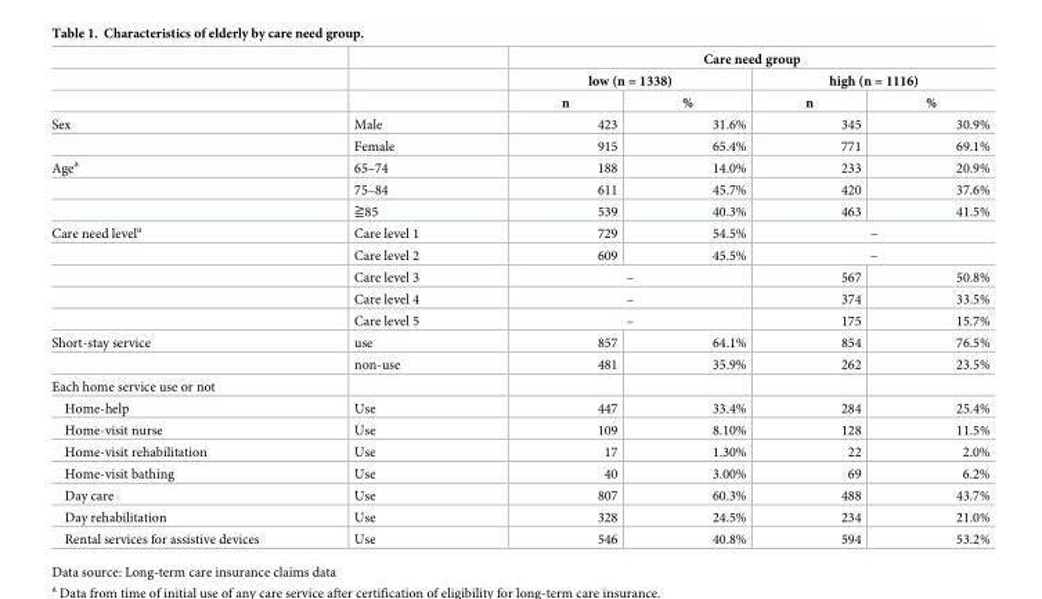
<table><thead><tr><td rowspan="3"></td><td rowspan="3"></td><td colspan="4">Care need group</td></tr><tr><td colspan="2">low (n = 1338)</td><td colspan="2">high (n = 1116)</td></tr><tr><td>n</td><td>%</td><td>n</td><td>%</td></tr></thead><tbody><tr><td rowspan="2">Sex</td><td>Male</td><td>423</td><td>31.6%</td><td>345</td><td>30.9%</td></tr><tr><td>Female</td><td>915</td><td>65.4%</td><td>771</td><td>69.1%</td></tr><tr><td rowspan="3">Age<sup>a</sup></td><td>65–74</td><td>188</td><td>14.0%</td><td>233</td><td>20.9%</td></tr><tr><td>75–84</td><td>611</td><td>45.7%</td><td>420</td><td>37.6%</td></tr><tr><td>≧85</td><td>539</td><td>40.3%</td><td>463</td><td>41.5%</td></tr><tr><td rowspan="5">Care need level<sup>a</sup></td><td>Care level 1</td><td>729</td><td>54.5%</td><td colspan="2">–</td></tr><tr><td>Care level 2</td><td>609</td><td>45.5%</td><td colspan="2">–</td></tr><tr><td>Care level 3</td><td colspan="2">–</td><td>567</td><td>50.8%</td></tr><tr><td>Care level 4</td><td colspan="2">–</td><td>374</td><td>33.5%</td></tr><tr><td>Care level 5</td><td colspan="2">–</td><td>175</td><td>15.7%</td></tr><tr><td rowspan="2">Short-stay service</td><td>use</td><td>857</td><td>64.1%</td><td>854</td><td>76.5%</td></tr><tr><td>non-use</td><td>481</td><td>35.9%</td><td>262</td><td>23.5%</td></tr><tr><td colspan="6">Each home service use or not</td></tr><tr><td>Home-help</td><td>Use</td><td>447</td><td>33.4%</td><td>284</td><td>25.4%</td></tr><tr><td>Home-visit nurse</td><td>Use</td><td>109</td><td>8.10%</td><td>128</td><td>11.5%</td></tr><tr><td>Home-visit rehabilitation</td><td>Use</td><td>17</td><td>1.30%</td><td>22</td><td>2.0%</td></tr><tr><td>Home-visit bathing</td><td>Use</td><td>40</td><td>3.00%</td><td>69</td><td>6.2%</td></tr><tr><td>Day care</td><td>Use</td><td>807</td><td>60.3%</td><td>488</td><td>43.7%</td></tr><tr><td>Day rehabilitation</td><td>Use</td><td>328</td><td>24.5%</td><td>234</td><td>21.0%</td></tr><tr><td>Rental services for assistive devices</td><td>Use</td><td>546</td><td>40.8%</td><td>594</td><td>53.2%</td></tr></tbody></table>